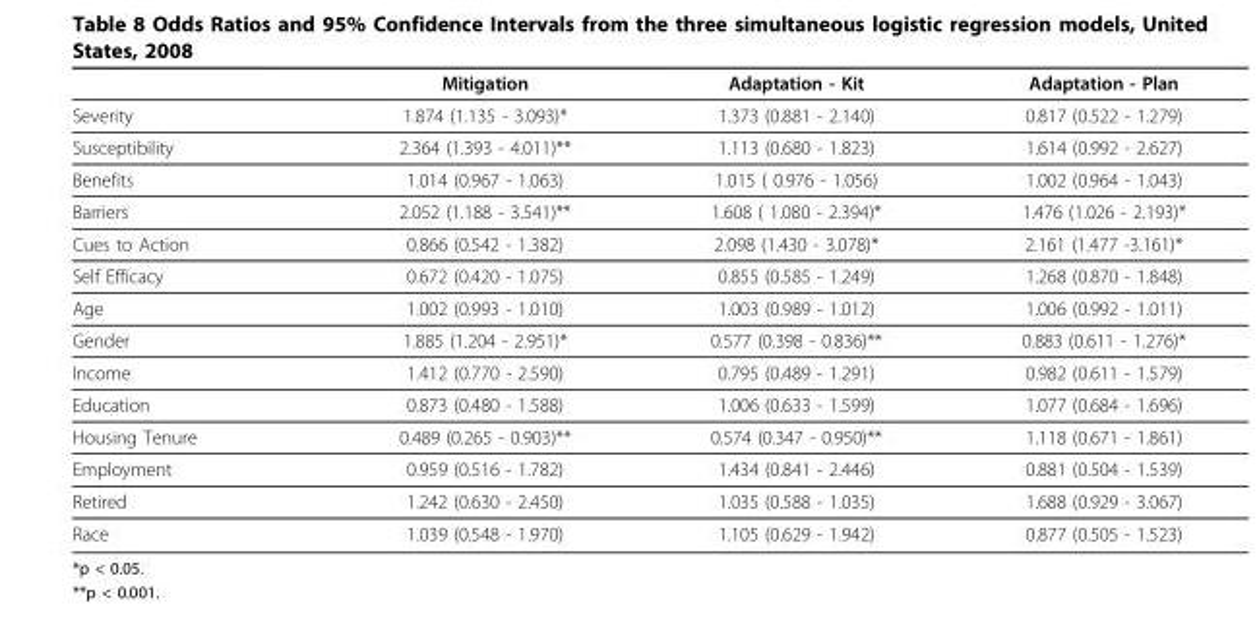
<table><thead><tr><td></td><td>Mitigation</td><td>Adaptation - Kit</td><td>Adaptation - Plan</td></tr></thead><tbody><tr><td>Severity</td><td>1.874 (1.135 - 3.093)*</td><td>1.373 (0.881 - 2.140)</td><td>0.817 (0.522 - 1.279)</td></tr><tr><td>Susceptibility</td><td>2.364 (1.393 - 4.011)**</td><td>1.113 (0.680 - 1.823)</td><td>1.614 (0.992 - 2.627)</td></tr><tr><td>Benefits</td><td>1.014 (0.967 - 1.063)</td><td>1.015 ( 0.976 - 1.056)</td><td>1.002 (0.964 - 1.043)</td></tr><tr><td>Barriers</td><td>2.052 (1.188 - 3.541)**</td><td>1.608 ( 1.080 - 2.394)*</td><td>1.476 (1.026 - 2.193)*</td></tr><tr><td>Cues to Action</td><td>0.866 (0.542 - 1.382)</td><td>2.098 (1.430 - 3.078)*</td><td>2.161 (1.477 -3.161)*</td></tr><tr><td>Self Efficacy</td><td>0.672 (0.420 - 1.075)</td><td>0.855 (0.585 - 1.249)</td><td>1.268 (0.870 - 1.848)</td></tr><tr><td>Age</td><td>1.002 (0.993 - 1.010)</td><td>1.003 (0.989 - 1.012)</td><td>1.006 (0.992 - 1.011)</td></tr><tr><td>Gender</td><td>1.885 (1.204 - 2.951)*</td><td>0.577 (0.398 - 0.836)**</td><td>0.883 (0.611 - 1.276)*</td></tr><tr><td>Income</td><td>1.412 (0.770 - 2.590)</td><td>0.795 (0.489 - 1.291)</td><td>0.982 (0.611 - 1.579)</td></tr><tr><td>Education</td><td>0.873 (0.480 - 1.588)</td><td>1.006 (0.633 - 1.599)</td><td>1.077 (0.684 - 1.696)</td></tr><tr><td>Housing Tenure</td><td>0.489 (0.265 - 0.903)**</td><td>0.574 (0.347 - 0.950)**</td><td>1.118 (0.671 - 1.861)</td></tr><tr><td>Employment</td><td>0.959 (0.516 - 1.782)</td><td>1.434 (0.841 - 2.446)</td><td>0.881 (0.504 - 1.539)</td></tr><tr><td>Retired</td><td>1.242 (0.630 - 2.450)</td><td>1.035 (0.588 - 1.035)</td><td>1.688 (0.929 - 3.067)</td></tr><tr><td>Race</td><td>1.039 (0.548 - 1.970)</td><td>1.105 (0.629 - 1.942)</td><td>0.877 (0.505 - 1.523)</td></tr></tbody></table>